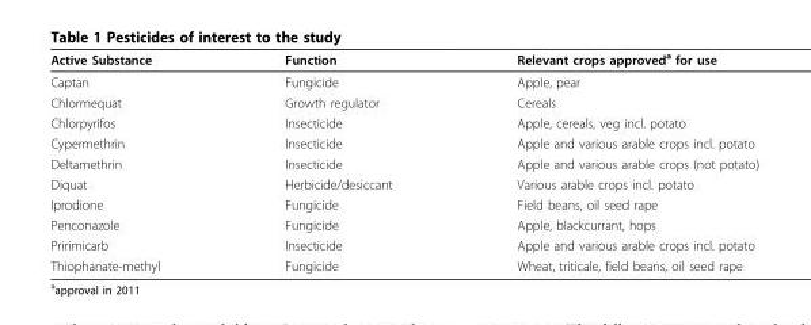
<table><thead><tr><td>Active Substance</td><td>Function</td><td>Relevant crops approved<sup>a</sup> for use</td></tr></thead><tbody><tr><td>Captan</td><td>Fungicide</td><td>Apple, pear</td></tr><tr><td>Chlormequat</td><td>Growth regulator</td><td>Cereals</td></tr><tr><td>Chlorpyrifos</td><td>Insecticide</td><td>Apple, cereals, veg incl. potato</td></tr><tr><td>Cypermethrin</td><td>Insecticide</td><td>Apple and various arable crops incl. potato</td></tr><tr><td>Deltamethrin</td><td>Insecticide</td><td>Apple and various arable crops (not potato)</td></tr><tr><td>Diquat</td><td>Herbicide/desiccant</td><td>Various arable crops incl. potato</td></tr><tr><td>Iprodione</td><td>Fungicide</td><td>Field beans, oil seed rape</td></tr><tr><td>Penconazole</td><td>Fungicide</td><td>Apple, blackcurrant, hops</td></tr><tr><td>Pririmicarb</td><td>Insecticide</td><td>Apple and various arable crops incl. potato</td></tr><tr><td>Thiophanate-methyl</td><td>Fungicide</td><td>Wheat, triticale, field beans, oil seed rape</td></tr></tbody></table>